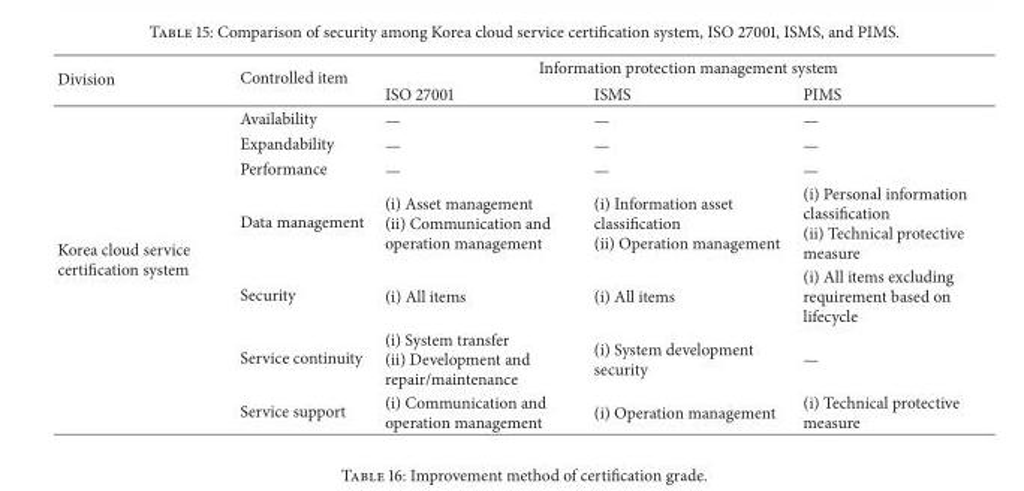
<table><thead><tr><td rowspan="2">Division</td><td rowspan="2">Controlled item</td><td colspan="3">Information protection management system</td></tr><tr><td>ISO 27001</td><td>ISMS</td><td>PIMS</td></tr></thead><tbody><tr><td rowspan="7">Korea cloud service certification system</td><td>Availability</td><td>—</td><td>—</td><td>—</td></tr><tr><td>Expandability</td><td>—</td><td>—</td><td>—</td></tr><tr><td>Performance</td><td>—</td><td>—</td><td>—</td></tr><tr><td>Data management</td><td>(i) Asset management (ii) Communication and operation management</td><td>(i) Information asset classification (ii) Operation management</td><td>(i) Personal information classification (ii) Technical protective measure</td></tr><tr><td>Security</td><td>(i) All items</td><td>(i) All items</td><td>(i) All items excluding requirement based on lifecycle</td></tr><tr><td>Service continuity</td><td>(i) System transfer (ii) Development and repair/maintenance</td><td>(i) System development security</td><td>—</td></tr><tr><td>Service support</td><td>(i) Communication and operation management</td><td>(i) Operation management</td><td>(i) Technical protective measure</td></tr></tbody></table>